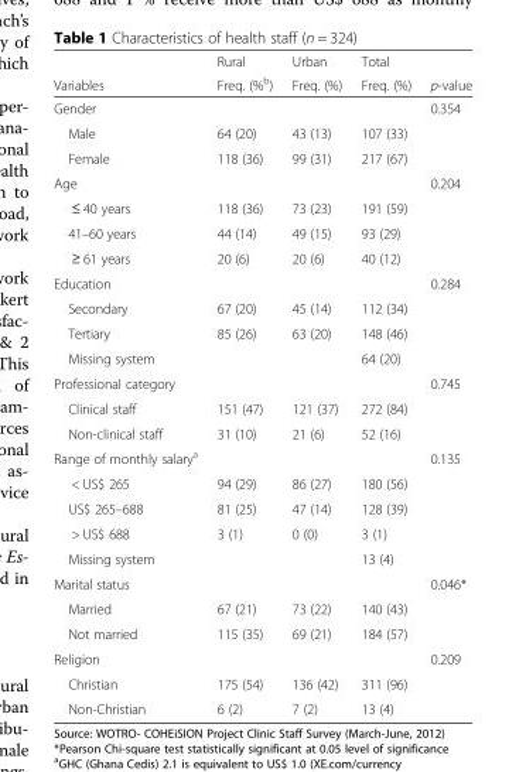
<table><thead><tr><td rowspan="2">Variables</td><td rowspan="2">Rural Freq. (%<sup>b</sup>)</td><td rowspan="2">Urban Freq. (%)</td><td rowspan="2">Total Freq. (%)</td><td rowspan="2">p-value</td></tr><tr></tr></thead><tbody><tr><td>Gender</td><td></td><td></td><td></td><td>0.354</td></tr><tr><td>Male</td><td>64 (20)</td><td>43 (13)</td><td>107 (33)</td><td></td></tr><tr><td>Female</td><td>118 (36)</td><td>99 (31)</td><td>217 (67)</td><td></td></tr><tr><td>Age</td><td></td><td></td><td></td><td>0.204</td></tr><tr><td>≤ 40 years</td><td>118 (36)</td><td>73 (23)</td><td>191 (59)</td><td></td></tr><tr><td>41–60 years</td><td>44 (14)</td><td>49 (15)</td><td>93 (29)</td><td></td></tr><tr><td>≥ 61 years</td><td>20 (6)</td><td>20 (6)</td><td>40 (12)</td><td></td></tr><tr><td>Education</td><td></td><td></td><td></td><td>0.284</td></tr><tr><td>Secondary</td><td>67 (20)</td><td>45 (14)</td><td>112 (34)</td><td></td></tr><tr><td>Tertiary</td><td>85 (26)</td><td>63 (20)</td><td>148 (46)</td><td></td></tr><tr><td>Missing system</td><td></td><td></td><td>64 (20)</td><td></td></tr><tr><td>Professional category</td><td></td><td></td><td></td><td>0.745</td></tr><tr><td>Clinical staff</td><td>151 (47)</td><td>121 (37)</td><td>272 (84)</td><td></td></tr><tr><td>Non-clinical staff</td><td>31 (10)</td><td>21 (6)</td><td>52 (16)</td><td></td></tr><tr><td>Range of monthly salary<sup>a</sup></td><td></td><td></td><td></td><td>0.135</td></tr><tr><td>&lt; US$ 265</td><td>94 (29)</td><td>86 (27)</td><td>180 (56)</td><td></td></tr><tr><td>US$ 265–688</td><td>81 (25)</td><td>47 (14)</td><td>128 (39)</td><td></td></tr><tr><td>&gt; US$ 688</td><td>3 (1)</td><td>0 (0)</td><td>3 (1)</td><td></td></tr><tr><td>Missing system</td><td></td><td></td><td>13 (4)</td><td></td></tr><tr><td>Marital status</td><td></td><td></td><td></td><td>0.046*</td></tr><tr><td>Married</td><td>67 (21)</td><td>73 (22)</td><td>140 (43)</td><td></td></tr><tr><td>Not married</td><td>115 (35)</td><td>69 (21)</td><td>184 (57)</td><td></td></tr><tr><td>Religion</td><td></td><td></td><td></td><td>0.209</td></tr><tr><td>Christian</td><td>175 (54)</td><td>136 (42)</td><td>311 (96)</td><td></td></tr><tr><td>Non-Christian</td><td>6 (2)</td><td>7 (2)</td><td>13 (4)</td><td></td></tr></tbody></table>